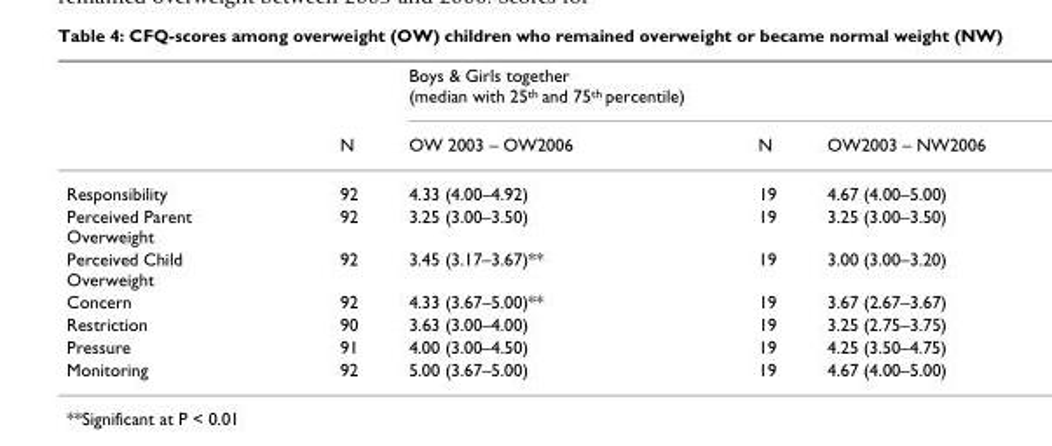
<table><thead><tr><td rowspan="2"></td><td rowspan="2">N</td><td colspan="3">Boys &amp; Girls together (median with 25<sup>th</sup> and 75<sup>th</sup> percentile)</td></tr><tr><td>OW 2003 – OW2006</td><td>N</td><td>OW2003 – NW2006</td></tr></thead><tbody><tr><td>Responsibility</td><td>92</td><td>4.33 (4.00–4.92)</td><td>19</td><td>4.67 (4.00–5.00)</td></tr><tr><td>Perceived Parent Overweight</td><td>92</td><td>3.25 (3.00–3.50)</td><td>19</td><td>3.25 (3.00–3.50)</td></tr><tr><td>Perceived Child Overweight</td><td>92</td><td>3.45 (3.17–3.67)**</td><td>19</td><td>3.00 (3.00–3.20)</td></tr><tr><td>Concern</td><td>92</td><td>4.33 (3.67–5.00)**</td><td>19</td><td>3.67 (2.67–3.67)</td></tr><tr><td>Restriction</td><td>90</td><td>3.63 (3.00–4.00)</td><td>19</td><td>3.25 (2.75–3.75)</td></tr><tr><td>Pressure</td><td>91</td><td>4.00 (3.00–4.50)</td><td>19</td><td>4.25 (3.50–4.75)</td></tr><tr><td>Monitoring</td><td>92</td><td>5.00 (3.67–5.00)</td><td>19</td><td>4.67 (4.00–5.00)</td></tr></tbody></table>